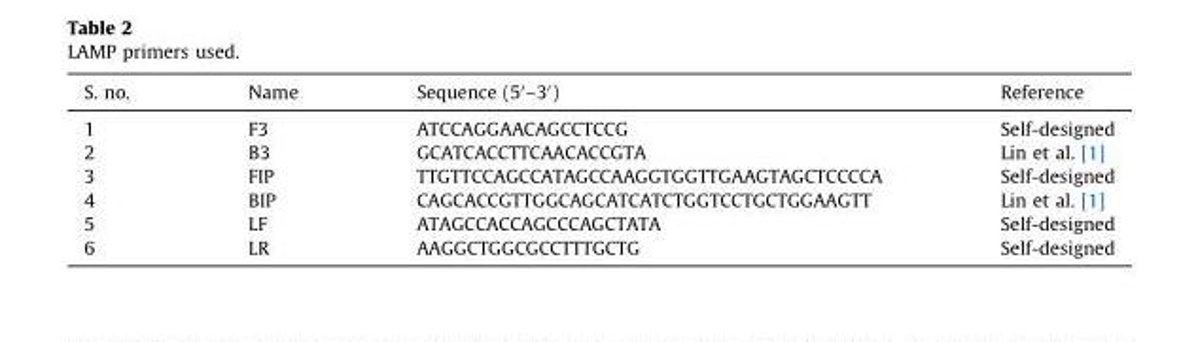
<table><thead><tr><td>S. no.</td><td>Name</td><td>Sequence (5′–3′)</td><td>Reference</td></tr></thead><tbody><tr><td>1</td><td>F3</td><td>ATCCAGGAACAGCCTCCG</td><td>Self-designed</td></tr><tr><td>2</td><td>B3</td><td>GCATCACCTTCAACACCGTA</td><td>Lin et al. [1]</td></tr><tr><td>3</td><td>FIP</td><td>TTGTTCCAGCCATAGCCAAGGTGGTTGAAGTAGCTCCCCA</td><td>Self-designed</td></tr><tr><td>4</td><td>BIP</td><td>CAGCACCGTTGGCAGCATCATCTGGTCCTGCTGGAAGTT</td><td>Lin et al. [1]</td></tr><tr><td>5</td><td>LF</td><td>ATAGCCACCAGCCCAGCTATA</td><td>Self-designed</td></tr><tr><td>6</td><td>LR</td><td>AAGGCTGGCGCCTTTGCTG</td><td>Self-designed</td></tr></tbody></table>